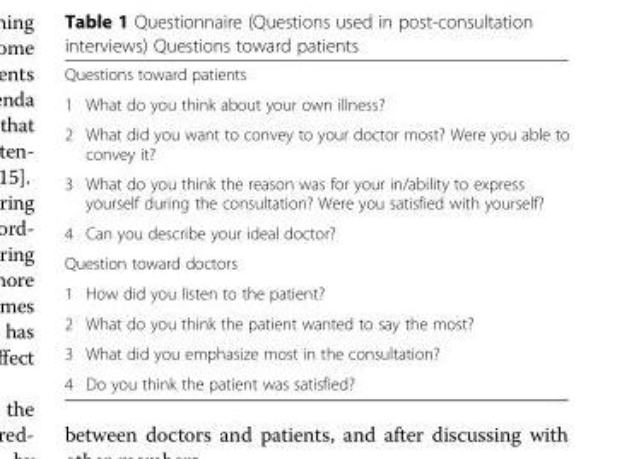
<table><tbody><tr><td colspan="2">Questions toward patients</td></tr><tr><td>1</td><td>What do you think about your own illness?</td></tr><tr><td>2</td><td>What did you want to convey to your doctor most? Were you able to convey it?</td></tr><tr><td>3</td><td>What do you think the reason was for your in/ability to express yourself during the consultation? Were you satisfied with yourself?</td></tr><tr><td>4</td><td>Can you describe your ideal doctor?</td></tr><tr><td colspan="2">Question toward doctors</td></tr><tr><td>1</td><td>How did you listen to the patient?</td></tr><tr><td>2</td><td>What do you think the patient wanted to say the most?</td></tr><tr><td>3</td><td>What did you emphasize most in the consultation?</td></tr><tr><td>4</td><td>Do you think the patient was satisfied?</td></tr></tbody></table>